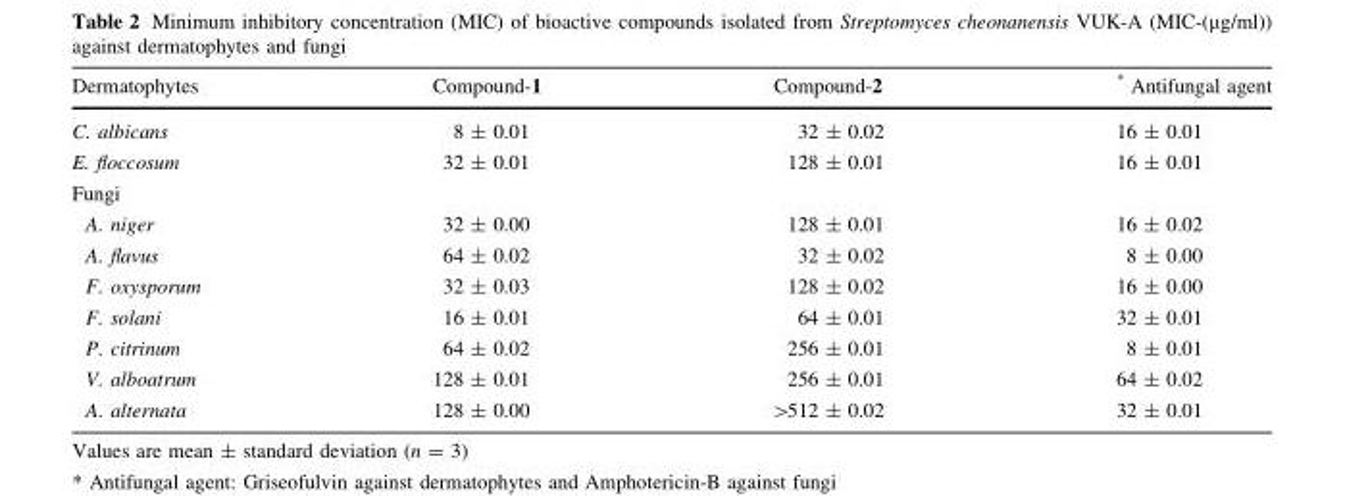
<table><thead><tr><td>Dermatophytes</td><td>Compound-1</td><td>Compound-2</td><td>* Antifungal agent</td></tr></thead><tbody><tr><td>C. albicans</td><td>8 ± 0.01</td><td>32 ± 0.02</td><td>16 ± 0.01</td></tr><tr><td>E. floccosum</td><td>32 ± 0.01</td><td>128 ± 0.01</td><td>16 ± 0.01</td></tr><tr><td colspan="4">Fungi</td></tr><tr><td>A. niger</td><td>32 ± 0.00</td><td>128 ± 0.01</td><td>16 ± 0.02</td></tr><tr><td>A. flavus</td><td>64 ± 0.02</td><td>32 ± 0.02</td><td>8 ± 0.00</td></tr><tr><td>F. oxysporum</td><td>32 ± 0.03</td><td>128 ± 0.02</td><td>16 ± 0.00</td></tr><tr><td>F. solani</td><td>16 ± 0.01</td><td>64 ± 0.01</td><td>32 ± 0.01</td></tr><tr><td>P. citrinum</td><td>64 ± 0.02</td><td>256 ± 0.01</td><td>8 ± 0.01</td></tr><tr><td>V. alboatrum</td><td>128 ± 0.01</td><td>256 ± 0.01</td><td>64 ± 0.02</td></tr><tr><td>A. alternata</td><td>128 ± 0.00</td><td>&gt;512 ± 0.02</td><td>32 ± 0.01</td></tr></tbody></table>